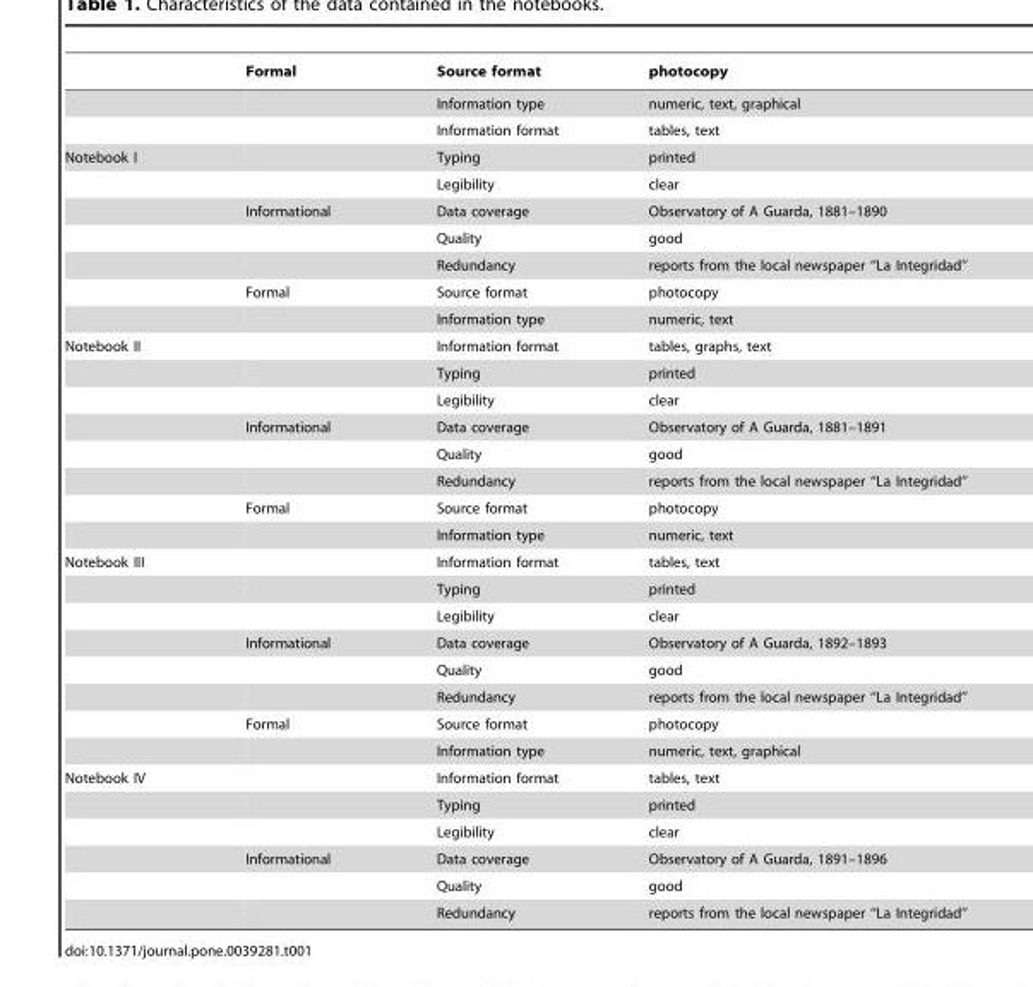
<table><thead><tr><td></td><td>Formal</td><td>Source format</td><td>photocopy</td></tr></thead><tbody><tr><td></td><td></td><td>Information type</td><td>numeric, text, graphical</td></tr><tr><td></td><td></td><td>Information format</td><td>tables, text</td></tr><tr><td rowspan="7">Notebook I</td><td></td><td>Typing</td><td>printed</td></tr><tr><td></td><td>Legibility</td><td>clear</td></tr><tr><td>Informational</td><td>Data coverage</td><td>Observatory of A Guarda, 1881–1890</td></tr><tr><td></td><td>Quality</td><td>good</td></tr><tr><td></td><td>Redundancy</td><td>reports from the local newspaper ‘‘La Integridad’’</td></tr><tr><td>Formal</td><td>Source format</td><td>photocopy</td></tr><tr><td></td><td>Information type</td><td>numeric, text</td></tr><tr><td rowspan="8">Notebook II</td><td></td><td>Information format</td><td>tables, graphs, text</td></tr><tr><td></td><td>Typing</td><td>printed</td></tr><tr><td></td><td>Legibility</td><td>clear</td></tr><tr><td>Informational</td><td>Data coverage</td><td>Observatory of A Guarda, 1881–1891</td></tr><tr><td></td><td>Quality</td><td>good</td></tr><tr><td></td><td>Redundancy</td><td>reports from the local newspaper ‘‘La Integridad’’</td></tr><tr><td>Formal</td><td>Source format</td><td>photocopy</td></tr><tr><td></td><td>Information type</td><td>numeric, text</td></tr><tr><td rowspan="8">Notebook III</td><td></td><td>Information format</td><td>tables, text</td></tr><tr><td></td><td>Typing</td><td>printed</td></tr><tr><td></td><td>Legibility</td><td>clear</td></tr><tr><td>Informational</td><td>Data coverage</td><td>Observatory of A Guarda, 1892–1893</td></tr><tr><td></td><td>Quality</td><td>good</td></tr><tr><td></td><td>Redundancy</td><td>reports from the local newspaper ‘‘La Integridad’’</td></tr><tr><td>Formal</td><td>Source format</td><td>photocopy</td></tr><tr><td></td><td>Information type</td><td>numeric, text, graphical</td></tr><tr><td rowspan="6">Notebook IV</td><td></td><td>Information format</td><td>tables, text</td></tr><tr><td></td><td>Typing</td><td>printed</td></tr><tr><td></td><td>Legibility</td><td>clear</td></tr><tr><td>Informational</td><td>Data coverage</td><td>Observatory of A Guarda, 1891–1896</td></tr><tr><td></td><td>Quality</td><td>good</td></tr><tr><td></td><td>Redundancy</td><td>reports from the local newspaper ‘‘La Integridad’’</td></tr></tbody></table>